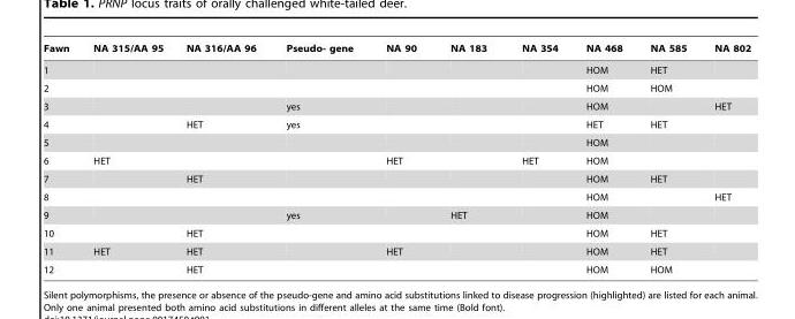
<table><thead><tr><td>Fawn</td><td>NA 315/AA 95</td><td>NA 316/AA 96</td><td>Pseudo- gene</td><td>NA 90</td><td>NA 183</td><td>NA 354</td><td>NA 468</td><td>NA 585</td><td>NA 802</td></tr></thead><tbody><tr><td>1</td><td></td><td></td><td></td><td></td><td></td><td></td><td>HOM</td><td>HET</td><td></td></tr><tr><td>2</td><td></td><td></td><td></td><td></td><td></td><td></td><td>HOM</td><td>HOM</td><td></td></tr><tr><td>3</td><td></td><td></td><td>yes</td><td></td><td></td><td></td><td>HOM</td><td></td><td>HET</td></tr><tr><td>4</td><td></td><td>HET</td><td>yes</td><td></td><td></td><td></td><td>HET</td><td>HET</td><td></td></tr><tr><td>5</td><td></td><td></td><td></td><td></td><td></td><td></td><td>HOM</td><td></td><td></td></tr><tr><td>6</td><td>HET</td><td></td><td></td><td>HET</td><td></td><td>HET</td><td>HOM</td><td></td><td></td></tr><tr><td>7</td><td></td><td>HET</td><td></td><td></td><td></td><td></td><td>HOM</td><td>HET</td><td></td></tr><tr><td>8</td><td></td><td></td><td></td><td></td><td></td><td></td><td>HOM</td><td></td><td>HET</td></tr><tr><td>9</td><td></td><td></td><td>yes</td><td></td><td>HET</td><td></td><td>HOM</td><td></td><td></td></tr><tr><td>10</td><td></td><td>HET</td><td></td><td></td><td></td><td></td><td>HOM</td><td>HET</td><td></td></tr><tr><td>11</td><td>HET</td><td>HET</td><td></td><td>HET</td><td></td><td></td><td>HOM</td><td>HET</td><td></td></tr><tr><td>12</td><td></td><td>HET</td><td></td><td></td><td></td><td></td><td>HOM</td><td>HOM</td><td></td></tr></tbody></table>